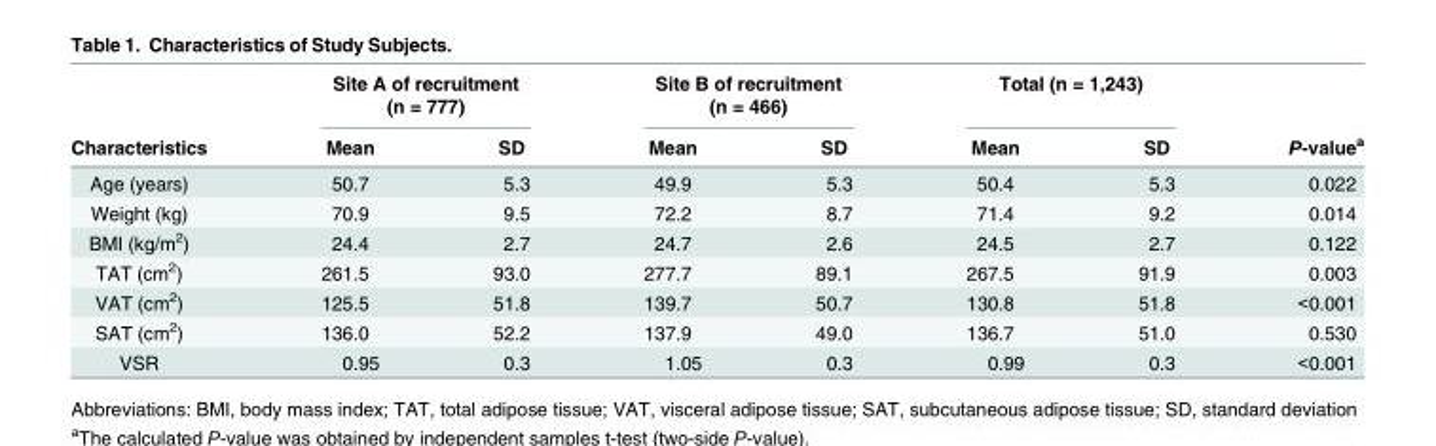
<table><thead><tr><td rowspan="2">Characteristics</td><td colspan="2">Site A of recruitment (n = 777)</td><td colspan="2">Site B of recruitment (n = 466)</td><td colspan="2">Total (n = 1,243)</td><td rowspan="2">P-value<sup>a</sup></td></tr><tr><td>Mean</td><td>SD</td><td>Mean</td><td>SD</td><td>Mean</td><td>SD</td></tr></thead><tbody><tr><td>Age (years)</td><td>50.7</td><td>5.3</td><td>49.9</td><td>5.3</td><td>50.4</td><td>5.3</td><td>0.022</td></tr><tr><td>Weight (kg)</td><td>70.9</td><td>9.5</td><td>72.2</td><td>8.7</td><td>71.4</td><td>9.2</td><td>0.014</td></tr><tr><td>BMI (kg/m<sup>2</sup>)</td><td>24.4</td><td>2.7</td><td>24.7</td><td>2.6</td><td>24.5</td><td>2.7</td><td>0.122</td></tr><tr><td>TAT (cm<sup>2</sup>)</td><td>261.5</td><td>93.0</td><td>277.7</td><td>89.1</td><td>267.5</td><td>91.9</td><td>0.003</td></tr><tr><td>VAT (cm<sup>2</sup>)</td><td>125.5</td><td>51.8</td><td>139.7</td><td>50.7</td><td>130.8</td><td>51.8</td><td>&lt;0.001</td></tr><tr><td>SAT (cm<sup>2</sup>)</td><td>136.0</td><td>52.2</td><td>137.9</td><td>49.0</td><td>136.7</td><td>51.0</td><td>0.530</td></tr><tr><td>VSR</td><td>0.95</td><td>0.3</td><td>1.05</td><td>0.3</td><td>0.99</td><td>0.3</td><td>&lt;0.001</td></tr></tbody></table>